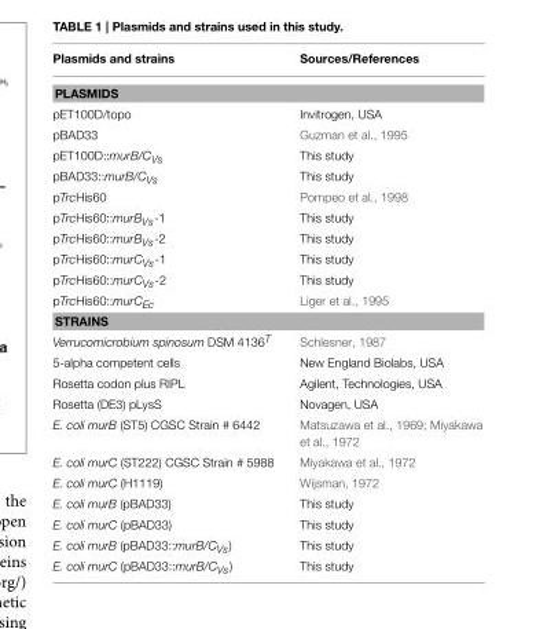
<table><thead><tr><td>Plasmids and strains</td><td>Sources/References</td></tr></thead><tbody><tr><td colspan="2">PLASMIDS</td></tr><tr><td>pET100D/topo</td><td>Invitrogen, USA</td></tr><tr><td>pBAD33</td><td>Guzman et al., 1995</td></tr><tr><td>pET100D::murB/CVs</td><td>This study</td></tr><tr><td>pBAD33::murB/CVs</td><td>This study</td></tr><tr><td>pTrcHis60</td><td>Pompeo et al., 1998</td></tr><tr><td>pTrcHis60::murBVs-1</td><td>This study</td></tr><tr><td>pTrcHis60::murBVs-2</td><td>This study</td></tr><tr><td>pTrcHis60::murCVs-1</td><td>This study</td></tr><tr><td>pTrcHis60::murCVs-2</td><td>This study</td></tr><tr><td>pTrcHis60::murCEc</td><td>Liger et al., 1995</td></tr><tr><td colspan="2">STRAINS</td></tr><tr><td>Verrucomicrobium spinosum DSM 4136<sup>T</sup></td><td>Schlesner, 1987</td></tr><tr><td>5-alpha competent cells</td><td>New England Biolabs, USA</td></tr><tr><td>Rosetta codon plus RIPL</td><td>Agilent, Technologies, USA</td></tr><tr><td>Rosetta (DE3) pLysS</td><td>Novagen, USA</td></tr><tr><td>E. coli murB (ST5) CGSC Strain # 6442</td><td>Matsuzawa et al., 1969; Miyakawa et al., 1972</td></tr><tr><td>E. coli murC (ST222) CGSC Strain # 5988</td><td>Miyakawa et al., 1972</td></tr><tr><td>E. coli murC (H1119)</td><td>Wijsman, 1972</td></tr><tr><td>E. coli murB (pBAD33)</td><td>This study</td></tr><tr><td>E. coli murC (pBAD33)</td><td>This study</td></tr><tr><td>E. coli murB (pBAD33::murB/CVs)</td><td>This study</td></tr><tr><td>E. coli murC (pBAD33::murB/CVs)</td><td>This study</td></tr></tbody></table>